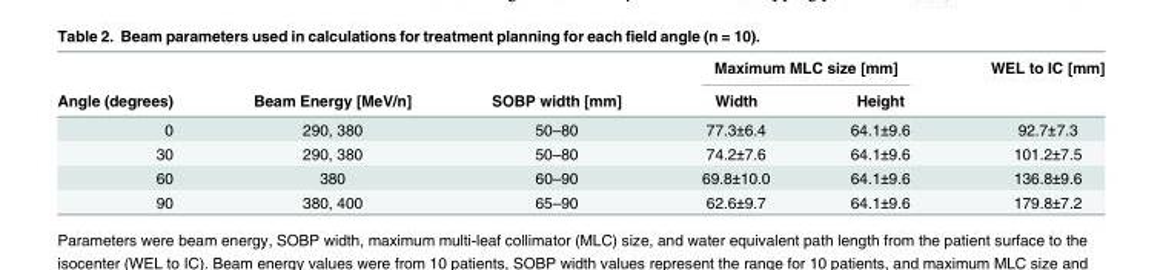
<table><thead><tr><td rowspan="2">Angle (degrees)</td><td rowspan="2">Beam Energy [MeV/n]</td><td rowspan="2">SOBP width [mm]</td><td colspan="2">Maximum MLC size [mm]</td><td rowspan="2">WEL to IC [mm]</td></tr><tr><td>Width</td><td>Height</td></tr></thead><tbody><tr><td>0</td><td>290, 380</td><td>50–80</td><td>77.3±6.4</td><td>64.1±9.6</td><td>92.7±7.3</td></tr><tr><td>30</td><td>290, 380</td><td>50–80</td><td>74.2±7.6</td><td>64.1±9.6</td><td>101.2±7.5</td></tr><tr><td>60</td><td>380</td><td>60–90</td><td>69.8±10.0</td><td>64.1±9.6</td><td>136.8±9.6</td></tr><tr><td>90</td><td>380, 400</td><td>65–90</td><td>62.6±9.7</td><td>64.1±9.6</td><td>179.8±7.2</td></tr></tbody></table>